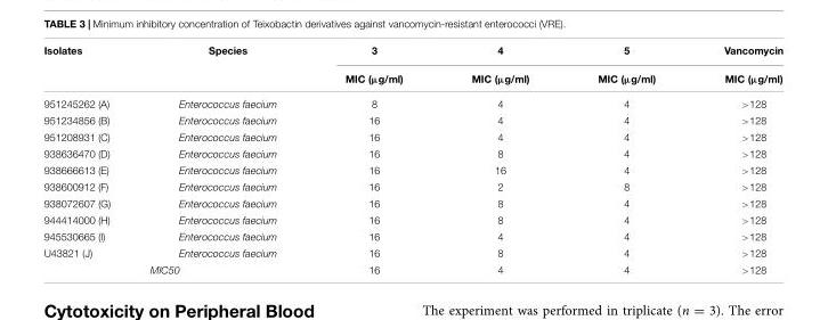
<table><thead><tr><td rowspan="2">Isolates</td><td rowspan="2">Species</td><td rowspan="2">3 MIC (µg/ml)</td><td rowspan="2">4 MIC (µg/ml)</td><td rowspan="2">5 MIC (µg/ml)</td><td rowspan="2">Vancomycin MIC (µg/ml)</td></tr><tr></tr></thead><tbody><tr><td>951245262 (A)</td><td>Enterococcus faecium</td><td>8</td><td>4</td><td>4</td><td>&gt;128</td></tr><tr><td>951234856 (B)</td><td>Enterococcus faecium</td><td>16</td><td>4</td><td>4</td><td>&gt;128</td></tr><tr><td>951208931 (C)</td><td>Enterococcus faecium</td><td>16</td><td>4</td><td>4</td><td>&gt;128</td></tr><tr><td>938636470 (D)</td><td>Enterococcus faecium</td><td>16</td><td>8</td><td>4</td><td>&gt;128</td></tr><tr><td>938666613 (E)</td><td>Enterococcus faecium</td><td>16</td><td>16</td><td>4</td><td>&gt;128</td></tr><tr><td>938600912 (F)</td><td>Enterococcus faecium</td><td>16</td><td>2</td><td>8</td><td>&gt;128</td></tr><tr><td>938072607 (G)</td><td>Enterococcus faecium</td><td>16</td><td>8</td><td>4</td><td>&gt;128</td></tr><tr><td>944414000 (H)</td><td>Enterococcus faecium</td><td>16</td><td>8</td><td>4</td><td>&gt;128</td></tr><tr><td>945530665 (I)</td><td>Enterococcus faecium</td><td>16</td><td>4</td><td>4</td><td>&gt;128</td></tr><tr><td>U43821 (J)</td><td>Enterococcus faecium</td><td>16</td><td>8</td><td>4</td><td>&gt;128</td></tr><tr><td colspan="2">MIC50</td><td>16</td><td>4</td><td>4</td><td>&gt;128</td></tr></tbody></table>